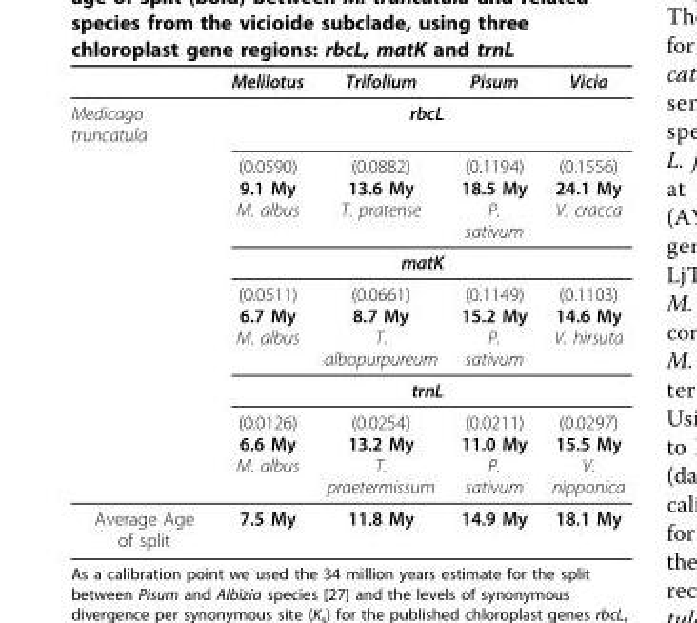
<table><thead><tr><td></td><td>Melilotus</td><td>Trifolium</td><td>Pisum</td><td>Vicia</td></tr></thead><tbody><tr><td rowspan="6">Medicago truncatula</td><td></td><td>rbcL</td><td></td><td></td></tr><tr><td>(0.0590) 9.1 My M. albus</td><td>(0.0882) 13.6 My T. pratense</td><td>(0.1194) 18.5 My P. sativum</td><td>(0.1556) 24.1 My V. cracca</td></tr><tr><td></td><td>matK</td><td></td><td></td></tr><tr><td>(0.0511) 6.7 My M. albus</td><td>(0.0661) 8.7 My T. albopurpureum</td><td>(0.1149) 15.2 My P. sativum</td><td>(0.1103) 14.6 My V. hirsuta</td></tr><tr><td></td><td>trnL</td><td></td><td></td></tr><tr><td>(0.0126) 6.6 My M. albus</td><td>(0.0254) 13.2 My T. praetermissum</td><td>(0.0211) 11.0 My P. sativum</td><td>(0.0297) 15.5 My V. nipponica</td></tr><tr><td>Average Age of split</td><td>7.5 My</td><td>11.8 My</td><td>14.9 My</td><td>18.1 My</td></tr></tbody></table>